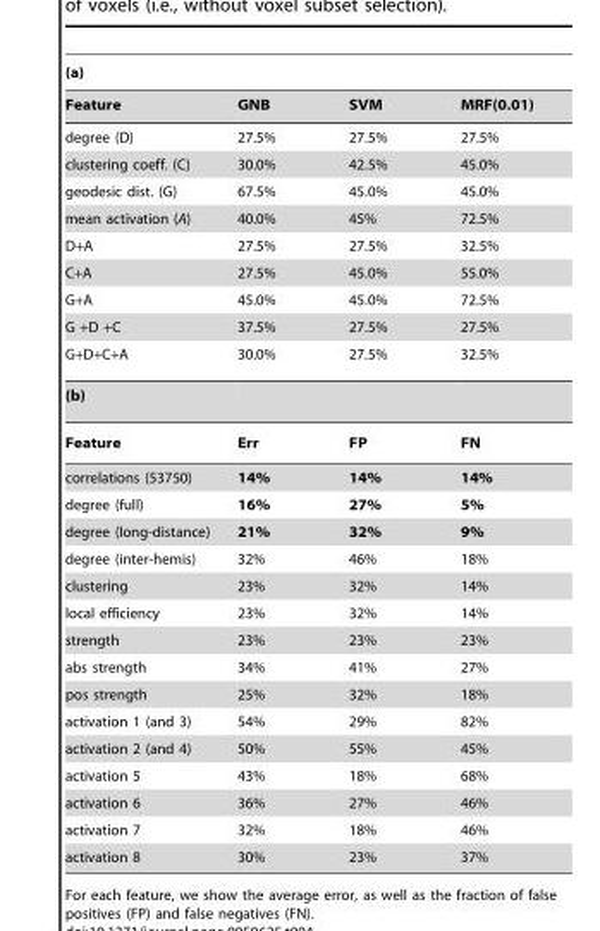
<table><thead><tr><td colspan="4">(a)</td></tr><tr><td>Feature</td><td>GNB</td><td>SVM</td><td>MRF(0.01)</td></tr></thead><tbody><tr><td>degree (D)</td><td>27.5%</td><td>27.5%</td><td>27.5%</td></tr><tr><td>clustering coeff. (C)</td><td>30.0%</td><td>42.5%</td><td>45.0%</td></tr><tr><td>geodesic dist. (G)</td><td>67.5%</td><td>45.0%</td><td>45.0%</td></tr><tr><td>mean activation (A)</td><td>40.0%</td><td>45%</td><td>72.5%</td></tr><tr><td>D+A</td><td>27.5%</td><td>27.5%</td><td>32.5%</td></tr><tr><td>C+A</td><td>27.5%</td><td>45.0%</td><td>55.0%</td></tr><tr><td>G+A</td><td>45.0%</td><td>45.0%</td><td>72.5%</td></tr><tr><td>G +D +C</td><td>37.5%</td><td>27.5%</td><td>27.5%</td></tr><tr><td>G+D+C+A</td><td>30.0%</td><td>27.5%</td><td>32.5%</td></tr><tr><td colspan="4">(b)</td></tr><tr><td>Feature</td><td>Err</td><td>FP</td><td>FN</td></tr><tr><td>correlations (53750)</td><td>14%</td><td>14%</td><td>14%</td></tr><tr><td>degree (full)</td><td>16%</td><td>27%</td><td>5%</td></tr><tr><td>degree (long-distance)</td><td>21%</td><td>32%</td><td>9%</td></tr><tr><td>degree (inter-hemis)</td><td>32%</td><td>46%</td><td>18%</td></tr><tr><td>clustering</td><td>23%</td><td>32%</td><td>14%</td></tr><tr><td>local efficiency</td><td>23%</td><td>32%</td><td>14%</td></tr><tr><td>strength</td><td>23%</td><td>23%</td><td>23%</td></tr><tr><td>abs strength</td><td>34%</td><td>41%</td><td>27%</td></tr><tr><td>pos strength</td><td>25%</td><td>32%</td><td>18%</td></tr><tr><td>activation 1 (and 3)</td><td>54%</td><td>29%</td><td>82%</td></tr><tr><td>activation 2 (and 4)</td><td>50%</td><td>55%</td><td>45%</td></tr><tr><td>activation 5</td><td>43%</td><td>18%</td><td>68%</td></tr><tr><td>activation 6</td><td>36%</td><td>27%</td><td>46%</td></tr><tr><td>activation 7</td><td>32%</td><td>18%</td><td>46%</td></tr><tr><td>activation 8</td><td>30%</td><td>23%</td><td>37%</td></tr></tbody></table>